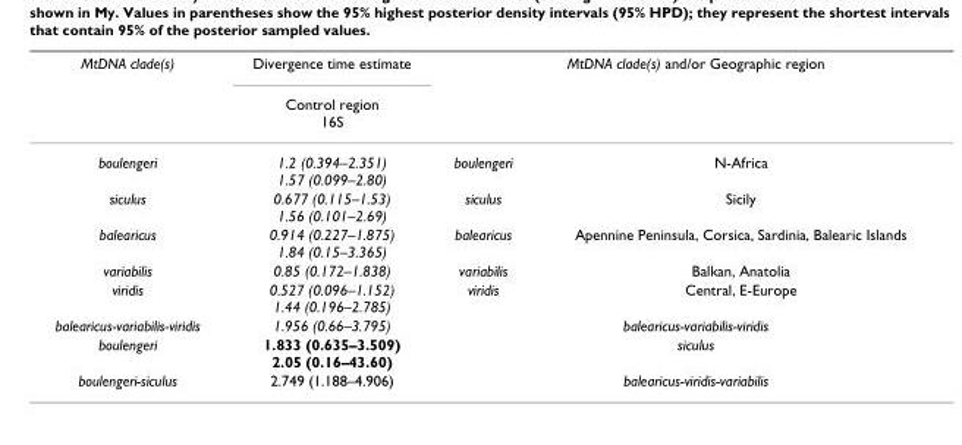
<table><thead><tr><td rowspan="2">MtDNA clade(s)</td><td rowspan="2">Divergence time estimate Control region 16S</td><td colspan="2">MtDNA clade(s) and/or Geographic region</td></tr><tr><td></td><td></td></tr></thead><tbody><tr><td>boulengeri</td><td>1.2 (0.394–2.351) 1.57 (0.099–2.80)</td><td>boulengeri</td><td>N-Africa</td></tr><tr><td>siculus</td><td>0.677 (0.115–1.53) 1.56 (0.101–2.69)</td><td>siculus</td><td>Sicily</td></tr><tr><td>balearicus</td><td>0.914 (0.227–1.875) 1.84 (0.15–3.365)</td><td>balearicus</td><td>Apennine Peninsula, Corsica, Sardinia, Balearic Islands</td></tr><tr><td>variabilis</td><td>0.85 (0.172–1.838)</td><td>variabilis</td><td>Balkan, Anatolia</td></tr><tr><td>viridis</td><td>0.527 (0.096–1.152) 1.44 (0.196–2.785)</td><td>viridis</td><td>Central, E-Europe</td></tr><tr><td>balearicus-variabilis-viridis</td><td>1.956 (0.66–3.795)</td><td colspan="2">balearicus-variabilis-viridis</td></tr><tr><td>boulengeri</td><td>1.833 (0.635–3.509) 2.05 (0.16–43.60)</td><td colspan="2">siculus</td></tr><tr><td>boulengeri-siculus</td><td>2.749 (1.188–4.906)</td><td colspan="2">balearicus-viridis-variabilis</td></tr></tbody></table>